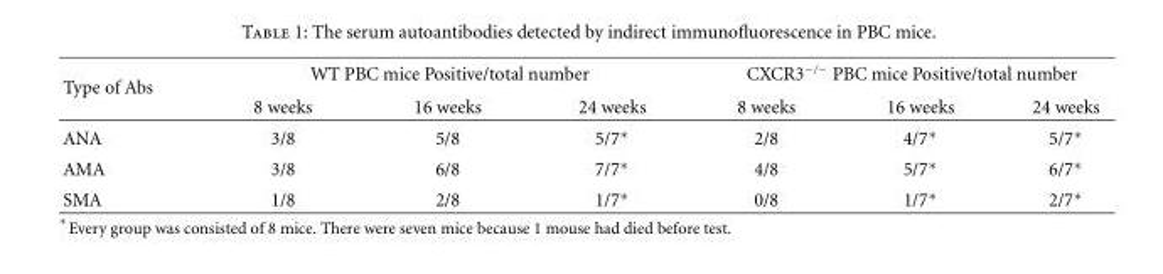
<table><thead><tr><td rowspan="2">Type of Abs</td><td colspan="3">WT PBC mice Positive/total number</td><td colspan="3">CXCR3<sup>−/−</sup> PBC mice Positive/total number</td></tr><tr><td>8 weeks</td><td>16 weeks</td><td>24 weeks</td><td>8 weeks</td><td>16 weeks</td><td>24 weeks</td></tr></thead><tbody><tr><td>ANA</td><td>3/8</td><td>5/8</td><td>5/7∗</td><td>2/8</td><td>4/7∗</td><td>5/7∗</td></tr><tr><td>AMA</td><td>3/8</td><td>6/8</td><td>7/7∗</td><td>4/8</td><td>5/7∗</td><td>6/7∗</td></tr><tr><td>SMA</td><td>1/8</td><td>2/8</td><td>1/7∗</td><td>0/8</td><td>1/7∗</td><td>2/7∗</td></tr></tbody></table>